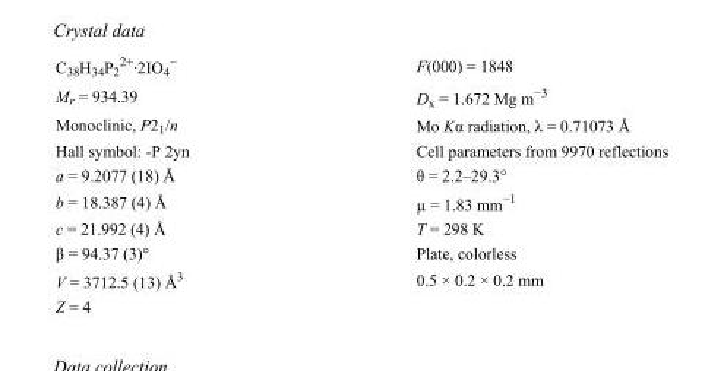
<table><tbody><tr><td>C<sub>38</sub>H<sub>34</sub>P<sub>2</sub> <sup>2+</sup>·2IO<sub>4</sub> <sup>−</sup></td><td>F(000) = 1848</td></tr><tr><td>M<sub>r</sub> = 934.39</td><td>D<sub>x</sub> = 1.672 Mg m<sup>−3</sup></td></tr><tr><td>Monoclinic, P2<sub>1</sub>/n</td><td>Mo Kα radiation, λ = 0.71073 Å</td></tr><tr><td>Hall symbol: -P 2yn</td><td>Cell parameters from 9970 reflections</td></tr><tr><td>a = 9.2077 (18) Å</td><td>θ = 2.2–29.3°</td></tr><tr><td>b = 18.387 (4) Å</td><td>µ = 1.83 mm<sup>−1</sup></td></tr><tr><td>c = 21.992 (4) Å</td><td>T = 298 K</td></tr><tr><td>β = 94.37 (3)°</td><td>Plate, colorless</td></tr><tr><td>V = 3712.5 (13) Å<sup>3</sup></td><td>0.5 × 0.2 × 0.2 mm</td></tr><tr><td>Z = 4</td><td></td></tr></tbody></table>